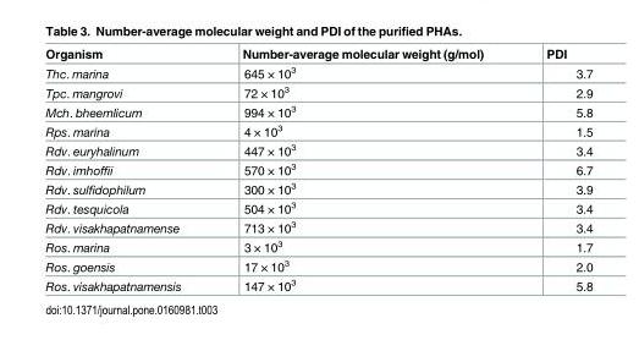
<table><thead><tr><td>Organism</td><td>Number-average molecular weight (g/mol)</td><td>PDI</td></tr></thead><tbody><tr><td>Thc. marina</td><td>645 × 10<sup>3</sup></td><td>3.7</td></tr><tr><td>Tpc. mangrovi</td><td>72 × 10<sup>3</sup></td><td>2.9</td></tr><tr><td>Mch. bheemlicum</td><td>994 × 10<sup>3</sup></td><td>5.8</td></tr><tr><td>Rps. marina</td><td>4 × 10<sup>3</sup></td><td>1.5</td></tr><tr><td>Rdv. euryhalinum</td><td>447 × 10<sup>3</sup></td><td>3.4</td></tr><tr><td>Rdv. imhoffii</td><td>570 × 10<sup>3</sup></td><td>6.7</td></tr><tr><td>Rdv. sulfidophilum</td><td>300 × 10<sup>3</sup></td><td>3.9</td></tr><tr><td>Rdv. tesquicola</td><td>504 × 10<sup>3</sup></td><td>3.4</td></tr><tr><td>Rdv. visakhapatnamense</td><td>713 × 10<sup>3</sup></td><td>3.4</td></tr><tr><td>Ros. marina</td><td>3 × 10<sup>3</sup></td><td>1.7</td></tr><tr><td>Ros. goensis</td><td>17 × 10<sup>3</sup></td><td>2.0</td></tr><tr><td>Ros. visakhapatnamensis</td><td>147 × 10<sup>3</sup></td><td>5.8</td></tr></tbody></table>